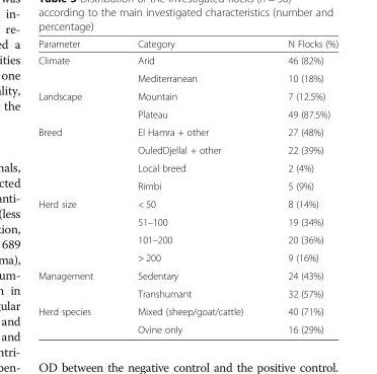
<table><thead><tr><td>Parameter</td><td>Category</td><td>N Flocks (%)</td></tr></thead><tbody><tr><td rowspan="2">Climate</td><td>Arid</td><td>46 (82%)</td></tr><tr><td>Mediterranean</td><td>10 (18%)</td></tr><tr><td rowspan="2">Landscape</td><td>Mountain</td><td>7 (12.5%)</td></tr><tr><td>Plateau</td><td>49 (87.5%)</td></tr><tr><td rowspan="4">Breed</td><td>El Hamra + other</td><td>27 (48%)</td></tr><tr><td>OuledDjellal + other</td><td>22 (39%)</td></tr><tr><td>Local breed</td><td>2 (4%)</td></tr><tr><td>Rimbi</td><td>5 (9%)</td></tr><tr><td rowspan="4">Herd size</td><td>&lt; 50</td><td>8 (14%)</td></tr><tr><td>51–100</td><td>19 (34%)</td></tr><tr><td>101–200</td><td>20 (36%)</td></tr><tr><td>&gt; 200</td><td>9 (16%)</td></tr><tr><td rowspan="2">Management</td><td>Sedentary</td><td>24 (43%)</td></tr><tr><td>Transhumant</td><td>32 (57%)</td></tr><tr><td rowspan="2">Herd species</td><td>Mixed (sheep/goat/cattle)</td><td>40 (71%)</td></tr><tr><td>Ovine only</td><td>16 (29%)</td></tr></tbody></table>